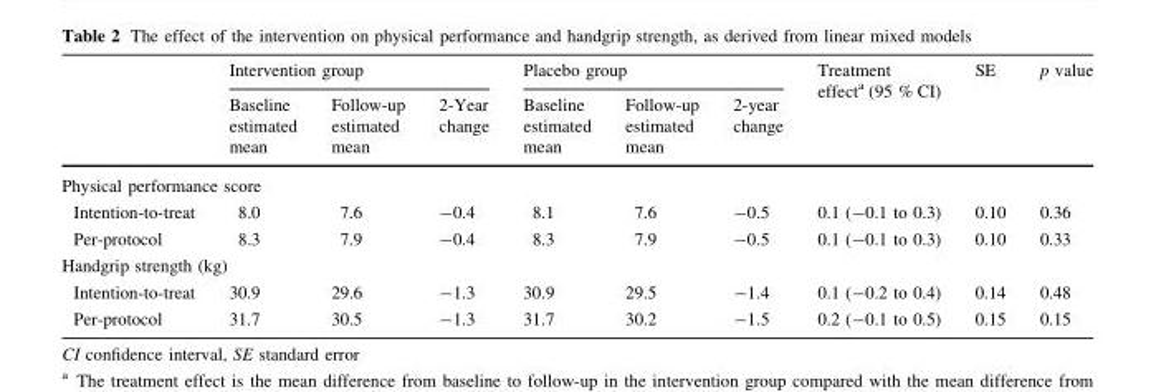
<table><thead><tr><td rowspan="2"></td><td colspan="3">Intervention group</td><td colspan="3">Placebo group</td><td rowspan="2">Treatment effect<sup>a</sup> (95 % CI)</td><td rowspan="2">SE</td><td rowspan="2">p value</td></tr><tr><td>Baseline estimated mean</td><td>Follow-up estimated mean</td><td>2-Year change</td><td>Baseline estimated mean</td><td>Follow-up estimated mean</td><td>2-year change</td></tr></thead><tbody><tr><td colspan="10">Physical performance score</td></tr><tr><td>Intention-to-treat</td><td>8.0</td><td>7.6</td><td>-0.4</td><td>8.1</td><td>7.6</td><td>-0.5</td><td>0.1 (-0.1 to 0.3)</td><td>0.10</td><td>0.36</td></tr><tr><td>Per-protocol</td><td>8.3</td><td>7.9</td><td>-0.4</td><td>8.3</td><td>7.9</td><td>-0.5</td><td>0.1 (-0.1 to 0.3)</td><td>0.10</td><td>0.33</td></tr><tr><td colspan="10">Handgrip strength (kg)</td></tr><tr><td>Intention-to-treat</td><td>30.9</td><td>29.6</td><td>-1.3</td><td>30.9</td><td>29.5</td><td>-1.4</td><td>0.1 (-0.2 to 0.4)</td><td>0.14</td><td>0.48</td></tr><tr><td>Per-protocol</td><td>31.7</td><td>30.5</td><td>-1.3</td><td>31.7</td><td>30.2</td><td>-1.5</td><td>0.2 (-0.1 to 0.5)</td><td>0.15</td><td>0.15</td></tr></tbody></table>